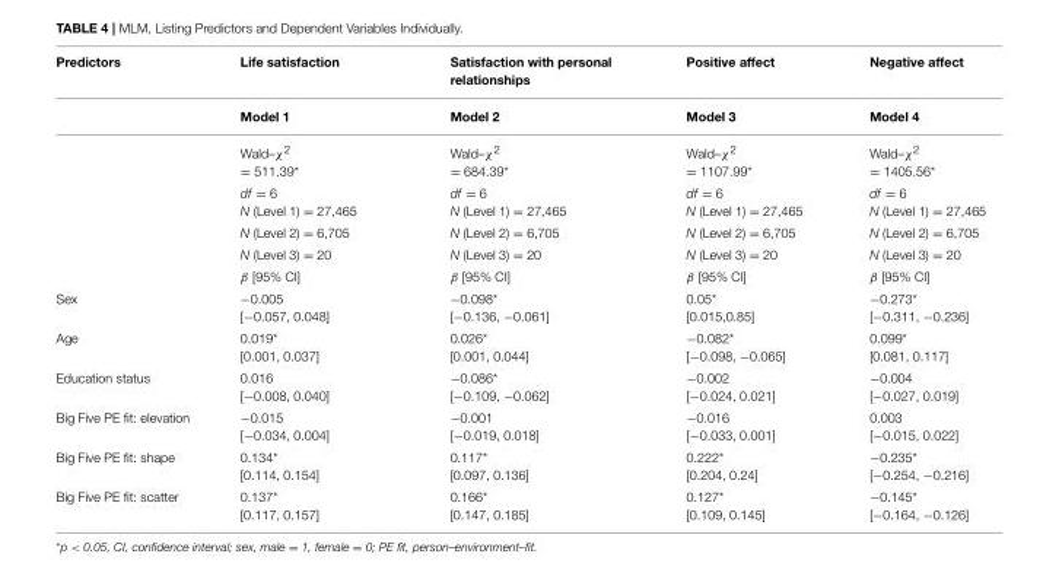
<table><thead><tr><td rowspan="2">Predictors</td><td rowspan="2">Life satisfaction Model 1</td><td rowspan="2">Satisfaction with personal relationships Model 2</td><td rowspan="2">Positive affect Model 3</td><td rowspan="2">Negative affect Model 4</td></tr><tr></tr></thead><tbody><tr><td></td><td>Wald–χ<sup>2</sup> = 511.39*</td><td>Wald–χ<sup>2</sup> = 684.39*</td><td>Wald–χ<sup>2</sup> = 1107.99*</td><td>Wald–χ<sup>2</sup> = 1405.56*</td></tr><tr><td></td><td>df = 6 N (Level 1) = 27,465</td><td>df = 6 N (Level 1) = 27,465</td><td>df = 6 N (Level 1) = 27,465</td><td>df = 6 N (Level 1) = 27,465</td></tr><tr><td></td><td>N (Level 2) = 6,705</td><td>N (Level 2) = 6,705</td><td>N (Level 2) = 6,705</td><td>N (Level 2) = 6,705</td></tr><tr><td></td><td>N (Level 3) = 20</td><td>N (Level 3) = 20</td><td>N (Level 3) = 20</td><td>N (Level 3) = 20</td></tr><tr><td></td><td>β [95% CI]</td><td>β [95% CI]</td><td>β [95% CI]</td><td>β [95% CI]</td></tr><tr><td>Sex</td><td>−0.005 [−0.057, 0.048]</td><td>−0.098* [−0.136, −0.061]</td><td>0.05* [0.015,0.85]</td><td>−0.273* [−0.311, −0.236]</td></tr><tr><td>Age</td><td>0.019* [0.001, 0.037]</td><td>0.026* [0.001, 0.044]</td><td>−0.082* [−0.098, −0.065]</td><td>0.099* [0.081, 0.117]</td></tr><tr><td>Education status</td><td>0.016 [−0.008, 0.040]</td><td>−0.086* [−0.109, −0.062]</td><td>−0.002 [−0.024, 0.021]</td><td>−0.004 [−0.027, 0.019]</td></tr><tr><td>Big Five PE fit: elevation</td><td>−0.015 [−0.034, 0.004]</td><td>−0.001 [−0.019, 0.018]</td><td>−0.016 [−0.033, 0.001]</td><td>0.003 [−0.015, 0.022]</td></tr><tr><td>Big Five PE fit: shape</td><td>0.134* [0.114, 0.154]</td><td>0.117* [0.097, 0.136]</td><td>0.222* [0.204, 0.24]</td><td>−0.235* [−0.254, −0.216]</td></tr><tr><td>Big Five PE fit: scatter</td><td>0.137* [0.117, 0.157]</td><td>0.166* [0.147, 0.185]</td><td>0.127* [0.109, 0.145]</td><td>−0.145* [−0.164, −0.126]</td></tr></tbody></table>